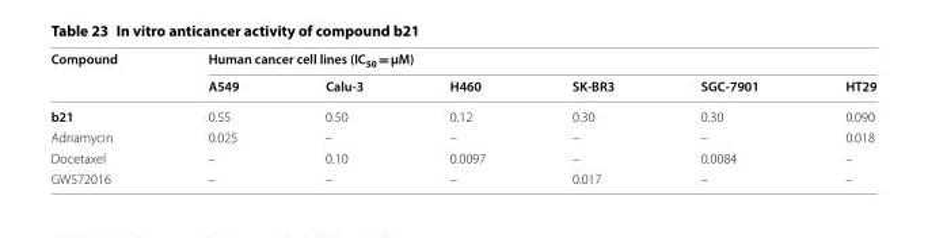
<table><thead><tr><td rowspan="2">Compound</td><td colspan="6">Human cancer cell lines (IC<sub>50</sub> = µM)</td></tr><tr><td>A549</td><td>Calu-3</td><td>H460</td><td>SK-BR3</td><td>SGC-7901</td><td>HT29</td></tr></thead><tbody><tr><td>b21</td><td>0.55</td><td>0.50</td><td>0.12</td><td>0.30</td><td>0.30</td><td>0.090</td></tr><tr><td>Adriamycin</td><td>0.025</td><td>–</td><td>–</td><td>–</td><td>–</td><td>0.018</td></tr><tr><td>Docetaxel</td><td>–</td><td>0.10</td><td>0.0097</td><td>–</td><td>0.0084</td><td>–</td></tr><tr><td>GW572016</td><td>–</td><td>–</td><td>–</td><td>0.017</td><td>–</td><td>–</td></tr></tbody></table>